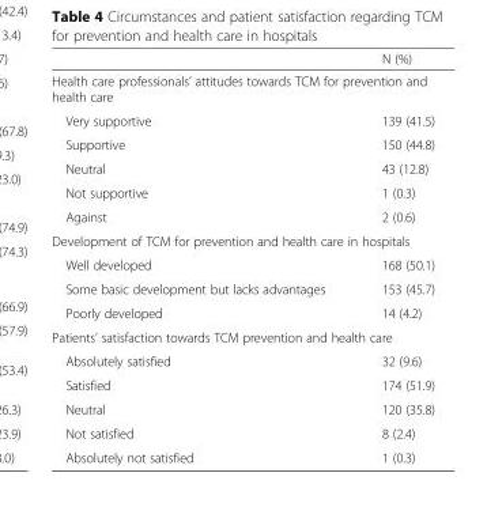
<table><thead><tr><td></td><td>N (%)</td></tr></thead><tbody><tr><td colspan="2">Health care professionals’ attitudes towards TCM for prevention and health care</td></tr><tr><td>Very supportive</td><td>139 (41.5)</td></tr><tr><td>Supportive</td><td>150 (44.8)</td></tr><tr><td>Neutral</td><td>43 (12.8)</td></tr><tr><td>Not supportive</td><td>1 (0.3)</td></tr><tr><td>Against</td><td>2 (0.6)</td></tr><tr><td colspan="2">Development of TCM for prevention and health care in hospitals</td></tr><tr><td>Well developed</td><td>168 (50.1)</td></tr><tr><td>Some basic development but lacks advantages</td><td>153 (45.7)</td></tr><tr><td>Poorly developed</td><td>14 (4.2)</td></tr><tr><td colspan="2">Patients’ satisfaction towards TCM prevention and health care</td></tr><tr><td>Absolutely satisfied</td><td>32 (9.6)</td></tr><tr><td>Satisfied</td><td>174 (51.9)</td></tr><tr><td>Neutral</td><td>120 (35.8)</td></tr><tr><td>Not satisfied</td><td>8 (2.4)</td></tr><tr><td>Absolutely not satisfied</td><td>1 (0.3)</td></tr></tbody></table>